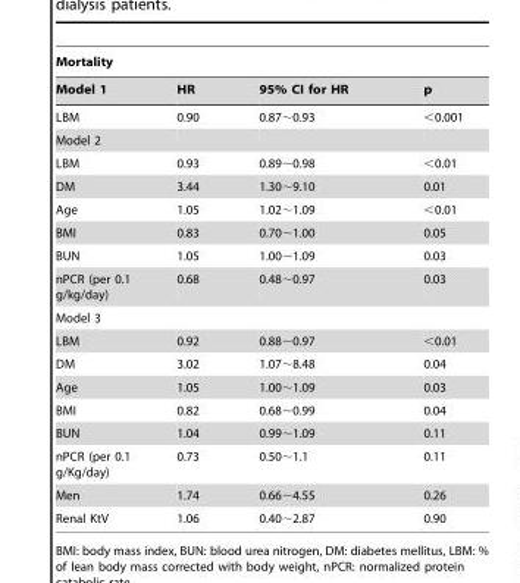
<table><thead><tr><td colspan="4">Mortality</td></tr><tr><td>Model 1</td><td>HR</td><td>95% CI for HR</td><td>p</td></tr></thead><tbody><tr><td>LBM</td><td>0.90</td><td>0.87∼0.93</td><td>&lt;0.001</td></tr><tr><td colspan="4">Model 2</td></tr><tr><td>LBM</td><td>0.93</td><td>0.89∼0.98</td><td>&lt;0.01</td></tr><tr><td>DM</td><td>3.44</td><td>1.30∼9.10</td><td>0.01</td></tr><tr><td>Age</td><td>1.05</td><td>1.02∼1.09</td><td>&lt;0.01</td></tr><tr><td>BMI</td><td>0.83</td><td>0.70∼1.00</td><td>0.05</td></tr><tr><td>BUN</td><td>1.05</td><td>1.00∼1.09</td><td>0.03</td></tr><tr><td>nPCR (per 0.1 g/kg/day)</td><td>0.68</td><td>0.48∼0.97</td><td>0.03</td></tr><tr><td colspan="4">Model 3</td></tr><tr><td>LBM</td><td>0.92</td><td>0.88∼0.97</td><td>&lt;0.01</td></tr><tr><td>DM</td><td>3.02</td><td>1.07∼8.48</td><td>0.04</td></tr><tr><td>Age</td><td>1.05</td><td>1.00∼1.09</td><td>0.03</td></tr><tr><td>BMI</td><td>0.82</td><td>0.68∼0.99</td><td>0.04</td></tr><tr><td>BUN</td><td>1.04</td><td>0.99∼1.09</td><td>0.11</td></tr><tr><td>nPCR (per 0.1 g/Kg/day)</td><td>0.73</td><td>0.50∼1.1</td><td>0.11</td></tr><tr><td>Men</td><td>1.74</td><td>0.66∼4.55</td><td>0.26</td></tr><tr><td>Renal KtV</td><td>1.06</td><td>0.40∼2.87</td><td>0.90</td></tr></tbody></table>